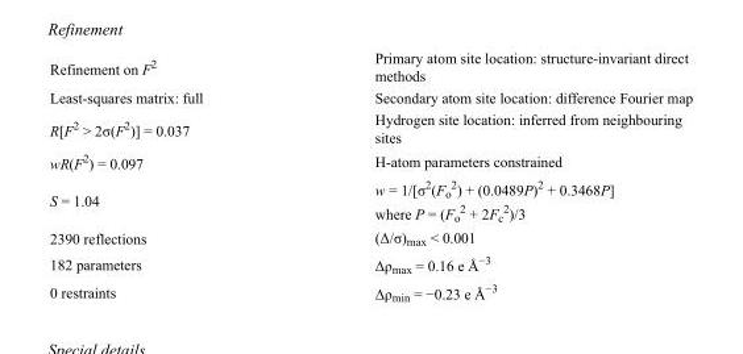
<table><tbody><tr><td>Refinement on F<sup>2</sup></td><td>Primary atom site location: structure-invariant direct methods</td></tr><tr><td>Least-squares matrix: full</td><td>Secondary atom site location: difference Fourier map</td></tr><tr><td>R[F<sup>2</sup> &gt; 2σ(F<sup>2</sup>)] = 0.037</td><td>Hydrogen site location: inferred from neighbouring sites</td></tr><tr><td>wR(F<sup>2</sup>) = 0.097</td><td>H-atom parameters constrained</td></tr><tr><td>S = 1.04</td><td>w = 1/[σ<sup>2</sup>(F<sub>o</sub> <sup>2</sup>) + (0.0489P)<sup>2</sup> + 0.3468P] where P = (F<sub>o</sub> <sup>2</sup> + 2F<sub>c</sub> <sup>2</sup>)/3</td></tr><tr><td>2390 reflections</td><td>(Δ/σ)<sub>max</sub> &lt; 0.001</td></tr><tr><td>182 parameters</td><td>Δρ<sub>max</sub> = 0.16 e Å<sup>−3</sup></td></tr><tr><td>0 restraints</td><td>Δρ<sub>min</sub> = −0.23 e Å<sup>−3</sup></td></tr></tbody></table>